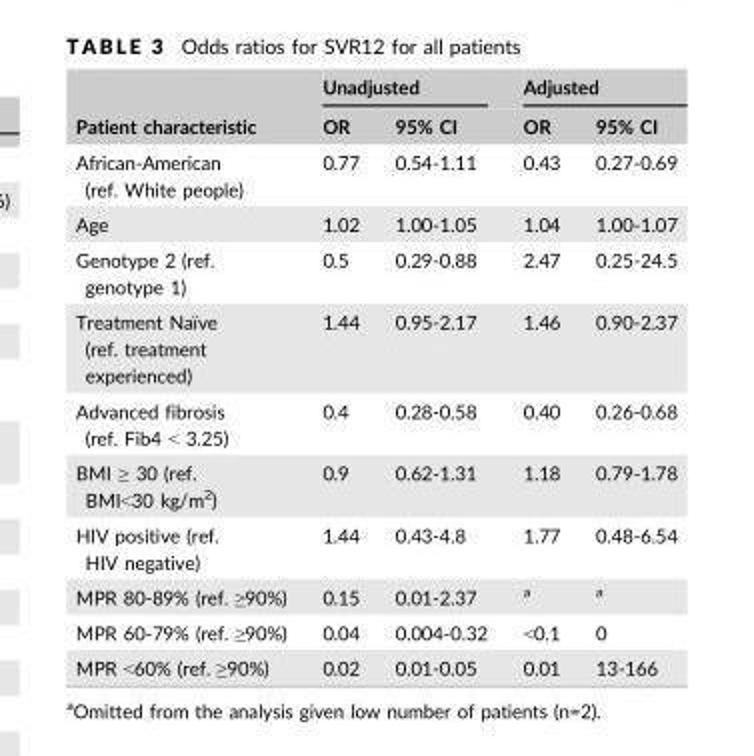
<table><thead><tr><td rowspan="2">Patient characteristic</td><td colspan="2">Unadjusted</td><td colspan="2">Adjusted</td></tr><tr><td>OR</td><td>95% CI</td><td>OR</td><td>95% CI</td></tr></thead><tbody><tr><td>African-American (ref. White people)</td><td>0.77</td><td>0.54-1.11</td><td>0.43</td><td>0.27-0.69</td></tr><tr><td>Age</td><td>1.02</td><td>1.00-1.05</td><td>1.04</td><td>1.00-1.07</td></tr><tr><td>Genotype 2 (ref. genotype 1)</td><td>0.5</td><td>0.29-0.88</td><td>2.47</td><td>0.25-24.5</td></tr><tr><td>Treatment Na€ıve (ref. treatment experienced)</td><td>1.44</td><td>0.95-2.17</td><td>1.46</td><td>0.90-2.37</td></tr><tr><td>Advanced fibrosis (ref. Fib4 &lt; 3.25)</td><td>0.4</td><td>0.28-0.58</td><td>0.40</td><td>0.26-0.68</td></tr><tr><td>BMI ≥ 30 (ref. BMI&lt;30 kg/m<sup>2</sup>)</td><td>0.9</td><td>0.62-1.31</td><td>1.18</td><td>0.79-1.78</td></tr><tr><td>HIV positive (ref. HIV negative)</td><td>1.44</td><td>0.43-4.8</td><td>1.77</td><td>0.48-6.54</td></tr><tr><td>MPR 80-89% (ref. ≥90%)</td><td>0.15</td><td>0.01-2.37</td><td>a</td><td>a</td></tr><tr><td>MPR 60-79% (ref. ≥90%)</td><td>0.04</td><td>0.004-0.32</td><td>&lt;0.1</td><td>0</td></tr><tr><td>MPR &lt;60% (ref. ≥90%)</td><td>0.02</td><td>0.01-0.05</td><td>0.01</td><td>13-166</td></tr></tbody></table>